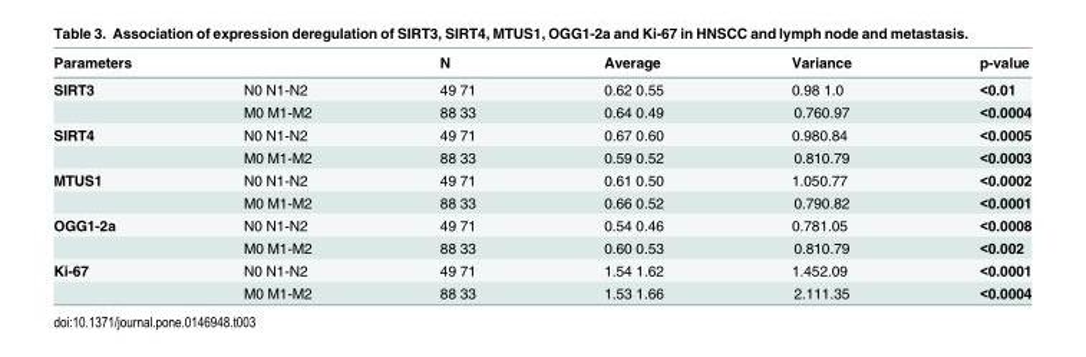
<table><thead><tr><td colspan="2">Parameters</td><td rowspan="2">N 49 71</td><td rowspan="2">Average 0.62 0.55</td><td rowspan="2">Variance 0.98 1.0</td><td rowspan="2">p-value &lt;0.01</td></tr><tr><td>SIRT3</td><td>N0 N1-N2</td></tr></thead><tbody><tr><td></td><td>M0 M1-M2</td><td>88 33</td><td>0.64 0.49</td><td>0.760.97</td><td>&lt;0.0004</td></tr><tr><td rowspan="2">SIRT4</td><td>N0 N1-N2</td><td>49 71</td><td>0.67 0.60</td><td>0.980.84</td><td>&lt;0.0005</td></tr><tr><td>M0 M1-M2</td><td>88 33</td><td>0.59 0.52</td><td>0.810.79</td><td>&lt;0.0003</td></tr><tr><td rowspan="2">MTUS1</td><td>N0 N1-N2</td><td>49 71</td><td>0.61 0.50</td><td>1.050.77</td><td>&lt;0.0002</td></tr><tr><td>M0 M1-M2</td><td>88 33</td><td>0.66 0.52</td><td>0.790.82</td><td>&lt;0.0001</td></tr><tr><td rowspan="2">OGG1-2a</td><td>N0 N1-N2</td><td>49 71</td><td>0.54 0.46</td><td>0.781.05</td><td>&lt;0.0008</td></tr><tr><td>M0 M1-M2</td><td>88 33</td><td>0.60 0.53</td><td>0.810.79</td><td>&lt;0.002</td></tr><tr><td rowspan="2">Ki-67</td><td>N0 N1-N2</td><td>49 71</td><td>1.54 1.62</td><td>1.452.09</td><td>&lt;0.0001</td></tr><tr><td>M0 M1-M2</td><td>88 33</td><td>1.53 1.66</td><td>2.111.35</td><td>&lt;0.0004</td></tr></tbody></table>